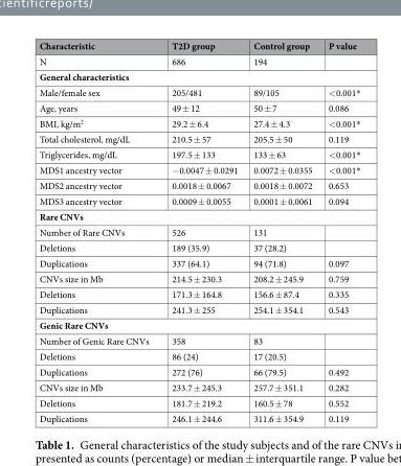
<table><thead><tr><td>Characteristic</td><td>T2D group</td><td>Control group</td><td>P value</td></tr></thead><tbody><tr><td>N</td><td>686</td><td>194</td><td></td></tr><tr><td colspan="4">General characteristics</td></tr><tr><td>Male/female sex</td><td>205/481</td><td>89/105</td><td>&lt;0.001*</td></tr><tr><td>Age, years</td><td>49 ± 12</td><td>50 ± 7</td><td>0.086</td></tr><tr><td>BMI, kg/m<sup>2</sup></td><td>29.2 ± 6.4</td><td>27.4 ± 4.3</td><td>&lt;0.001*</td></tr><tr><td>Total cholesterol, mg/dL</td><td>210.5 ± 57</td><td>205.5 ± 50</td><td>0.119</td></tr><tr><td>Triglycerides, mg/dL</td><td>197.5 ± 133</td><td>133 ± 63</td><td>&lt;0.001*</td></tr><tr><td>MDS1 ancestry vector</td><td>−0.0047 ± 0.0291</td><td>0.0072 ± 0.0355</td><td>&lt;0.001*</td></tr><tr><td>MDS2 ancestry vector</td><td>0.0018 ± 0.0067</td><td>0.0018 ± 0.0072</td><td>0.653</td></tr><tr><td>MDS3 ancestry vector</td><td>0.0009 ± 0.0055</td><td>0.0001 ± 0.0061</td><td>0.094</td></tr><tr><td colspan="4">Rare CNVs</td></tr><tr><td>Number of Rare CNVs</td><td>526</td><td>131</td><td></td></tr><tr><td>Deletions</td><td>189 (35.9)</td><td>37 (28.2)</td><td></td></tr><tr><td>Duplications</td><td>337 (64.1)</td><td>94 (71.8)</td><td>0.097</td></tr><tr><td>CNVs size in Mb</td><td>214.5 ± 230.3</td><td>208.2 ± 245.9</td><td>0.759</td></tr><tr><td>Deletions</td><td>171.3 ± 164.8</td><td>156.6 ± 87.4</td><td>0.335</td></tr><tr><td>Duplications</td><td>241.3 ± 255</td><td>254.1 ± 354.1</td><td>0.543</td></tr><tr><td colspan="4">Genic Rare CNVs</td></tr><tr><td>Number of Genic Rare CNVs</td><td>358</td><td>83</td><td></td></tr><tr><td>Deletions</td><td>86 (24)</td><td>17 (20.5)</td><td></td></tr><tr><td>Duplications</td><td>272 (76)</td><td>66 (79.5)</td><td>0.492</td></tr><tr><td>CNVs size in Mb</td><td>233.7 ± 245.3</td><td>257.7 ± 351.1</td><td>0.282</td></tr><tr><td>Deletions</td><td>181.7 ± 219.2</td><td>160.5 ± 78</td><td>0.552</td></tr><tr><td>Duplications</td><td>246.1 ± 244.6</td><td>311.6 ± 354.9</td><td>0.119</td></tr></tbody></table>